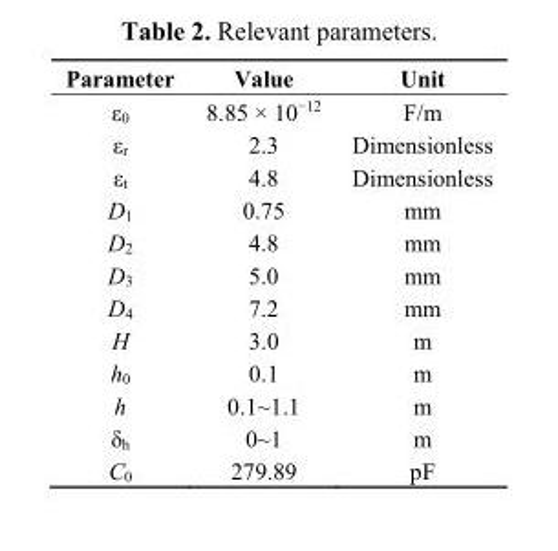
<table><thead><tr><td>Parameter</td><td>Value</td><td>Unit</td></tr></thead><tbody><tr><td>ε<sub>0</sub></td><td>8.85 × 10<sup>−12</sup></td><td>F/m</td></tr><tr><td>ε<sub>r</sub></td><td>2.3</td><td>Dimensionless</td></tr><tr><td>ε<sub>t</sub></td><td>4.8</td><td>Dimensionless</td></tr><tr><td>D<sub>1</sub></td><td>0.75</td><td>mm</td></tr><tr><td>D<sub>2</sub></td><td>4.8</td><td>mm</td></tr><tr><td>D<sub>3</sub></td><td>5.0</td><td>mm</td></tr><tr><td>D<sub>4</sub></td><td>7.2</td><td>mm</td></tr><tr><td>H</td><td>3.0</td><td>m</td></tr><tr><td>h<sub>0</sub></td><td>0.1</td><td>m</td></tr><tr><td>h</td><td>0.1~1.1</td><td>m</td></tr><tr><td>δ<sub>h</sub></td><td>0~1</td><td>m</td></tr><tr><td>C<sub>0</sub></td><td>279.89</td><td>pF</td></tr></tbody></table>